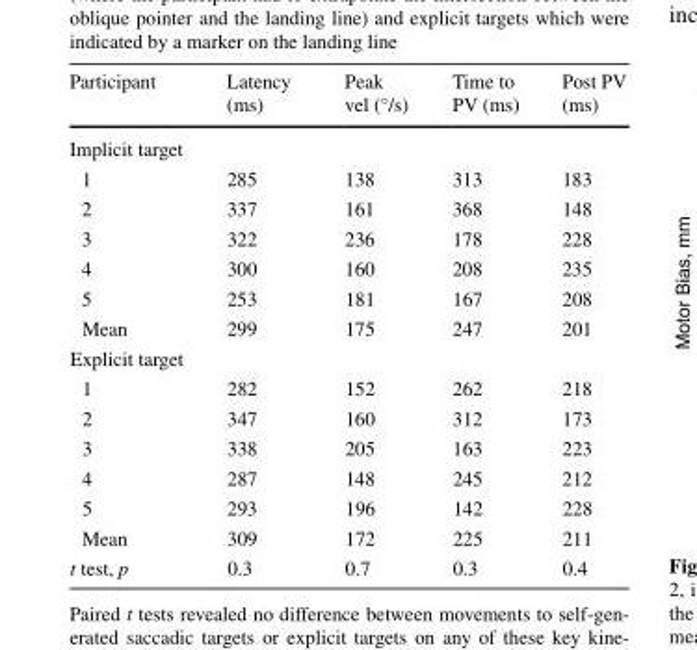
<table><thead><tr><td>Participant</td><td>Latency (ms)</td><td>Peak vel (°/s)</td><td>Time to PV (ms)</td><td>Post PV (ms)</td></tr></thead><tbody><tr><td colspan="5">Implicit target</td></tr><tr><td>1</td><td>285</td><td>138</td><td>313</td><td>183</td></tr><tr><td>2</td><td>337</td><td>161</td><td>368</td><td>148</td></tr><tr><td>3</td><td>322</td><td>236</td><td>178</td><td>228</td></tr><tr><td>4</td><td>300</td><td>160</td><td>208</td><td>235</td></tr><tr><td>5</td><td>253</td><td>181</td><td>167</td><td>208</td></tr><tr><td>Mean</td><td>299</td><td>175</td><td>247</td><td>201</td></tr><tr><td colspan="5">Explicit target</td></tr><tr><td>1</td><td>282</td><td>152</td><td>262</td><td>218</td></tr><tr><td>2</td><td>347</td><td>160</td><td>312</td><td>173</td></tr><tr><td>3</td><td>338</td><td>205</td><td>163</td><td>223</td></tr><tr><td>4</td><td>287</td><td>148</td><td>245</td><td>212</td></tr><tr><td>5</td><td>293</td><td>196</td><td>142</td><td>228</td></tr><tr><td>Mean</td><td>309</td><td>172</td><td>225</td><td>211</td></tr><tr><td>t test, p</td><td>0.3</td><td>0.7</td><td>0.3</td><td>0.4</td></tr></tbody></table>